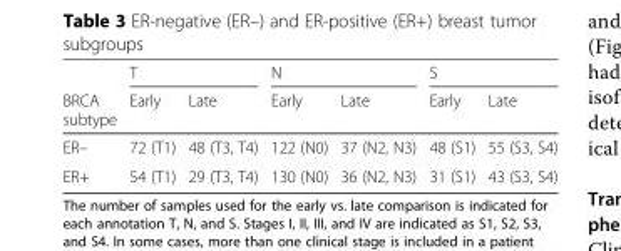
<table><thead><tr><td rowspan="2">BRCA subtype</td><td colspan="2">T</td><td colspan="2">N</td><td colspan="2">S</td></tr><tr><td>Early</td><td>Late</td><td>Early</td><td>Late</td><td>Early</td><td>Late</td></tr></thead><tbody><tr><td>ER–</td><td>72 (T1)</td><td>48 (T3, T4)</td><td>122 (N0)</td><td>37 (N2, N3)</td><td>48 (S1)</td><td>55 (S3, S4)</td></tr><tr><td>ER+</td><td>54 (T1)</td><td>29 (T3, T4)</td><td>130 (N0)</td><td>36 (N2, N3)</td><td>31 (S1)</td><td>43 (S3, S4)</td></tr></tbody></table>